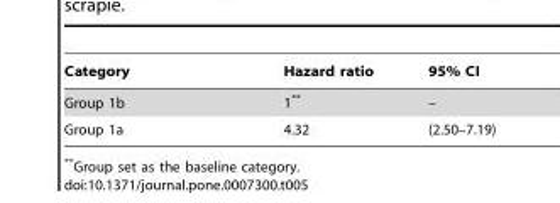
<table><thead><tr><td>Category</td><td>Hazard ratio</td><td>95% CI</td></tr></thead><tbody><tr><td>Group 1b</td><td>1**</td><td>–</td></tr><tr><td>Group 1a</td><td>4.32</td><td>(2.50–7.19)</td></tr></tbody></table>